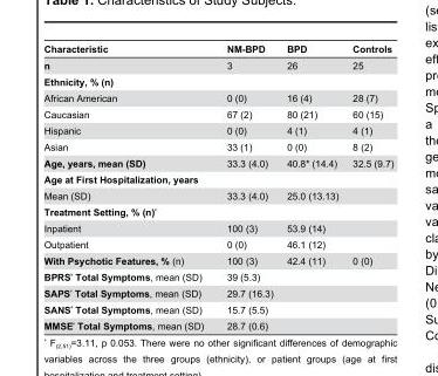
<table><thead><tr><td>Characteristic</td><td>NM-BPD</td><td>BPD</td><td>Controls</td></tr></thead><tbody><tr><td>n</td><td>3</td><td>26</td><td>25</td></tr><tr><td colspan="4">Ethnicity, % (n)</td></tr><tr><td>African American</td><td>0 (0)</td><td>16 (4)</td><td>28 (7)</td></tr><tr><td>Caucasian</td><td>67 (2)</td><td>80 (21)</td><td>60 (15)</td></tr><tr><td>Hispanic</td><td>0 (0)</td><td>4 (1)</td><td>4 (1)</td></tr><tr><td>Asian</td><td>33 (1)</td><td>0 (0)</td><td>8 (2)</td></tr><tr><td>Age, years, mean (SD)</td><td>33.3 (4.0)</td><td>40.8* (14.4)</td><td>32.5 (9.7)</td></tr><tr><td colspan="4">Age at First Hospitalization, years</td></tr><tr><td>Mean (SD)</td><td>33.3 (4.0)</td><td>25.0 (13.13)</td><td></td></tr><tr><td colspan="4">Treatment Setting, % (n) <sup>a</sup></td></tr><tr><td>Inpatient</td><td>100 (3)</td><td>53.9 (14)</td><td></td></tr><tr><td>Outpatient</td><td>0 (0)</td><td>46.1 (12)</td><td></td></tr><tr><td>With Psychotic Features, % (n)</td><td>100 (3)</td><td>42.4 (11)</td><td>0 (0)</td></tr><tr><td>BPRS <sup>b</sup> Total Symptoms, mean (SD)</td><td>39 (5.3)</td><td></td><td></td></tr><tr><td>SAPS <sup>c</sup> Total Symptoms, mean (SD)</td><td>29.7 (16.3)</td><td></td><td></td></tr><tr><td>SANS <sup>d</sup> Total Symptoms, mean (SD)</td><td>15.7 (5.5)</td><td></td><td></td></tr><tr><td>MMSE <sup>e</sup> Total Symptoms, mean (SD)</td><td>28.7 (0.6)</td><td></td><td></td></tr></tbody></table>